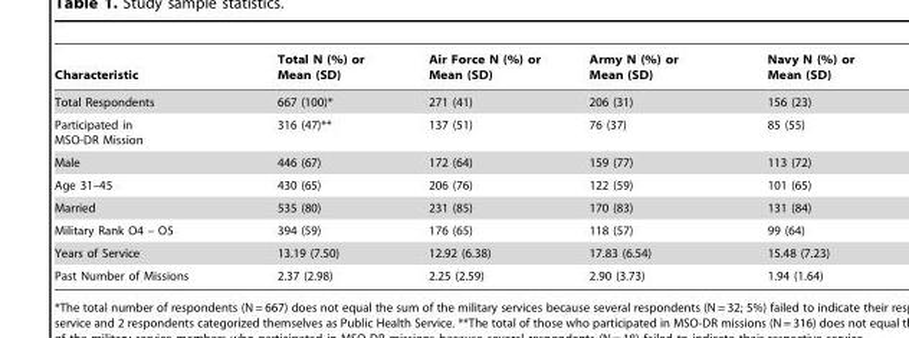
<table><thead><tr><td>Characteristic</td><td>Total N (%) or Mean (SD)</td><td>Air Force N (%) or Mean (SD)</td><td>Army N (%) or Mean (SD)</td><td>Navy N (%) or Mean (SD)</td></tr></thead><tbody><tr><td>Total Respondents</td><td>667 (100)*</td><td>271 (41)</td><td>206 (31)</td><td>156 (23)</td></tr><tr><td>Participated in MSO-DR Mission</td><td>316 (47)**</td><td>137 (51)</td><td>76 (37)</td><td>85 (55)</td></tr><tr><td>Male</td><td>446 (67)</td><td>172 (64)</td><td>159 (77)</td><td>113 (72)</td></tr><tr><td>Age 31–45</td><td>430 (65)</td><td>206 (76)</td><td>122 (59)</td><td>101 (65)</td></tr><tr><td>Married</td><td>535 (80)</td><td>231 (85)</td><td>170 (83)</td><td>131 (84)</td></tr><tr><td>Military Rank O4 – O5</td><td>394 (59)</td><td>176 (65)</td><td>118 (57)</td><td>99 (64)</td></tr><tr><td>Years of Service</td><td>13.19 (7.50)</td><td>12.92 (6.38)</td><td>17.83 (6.54)</td><td>15.48 (7.23)</td></tr><tr><td>Past Number of Missions</td><td>2.37 (2.98)</td><td>2.25 (2.59)</td><td>2.90 (3.73)</td><td>1.94 (1.64)</td></tr></tbody></table>